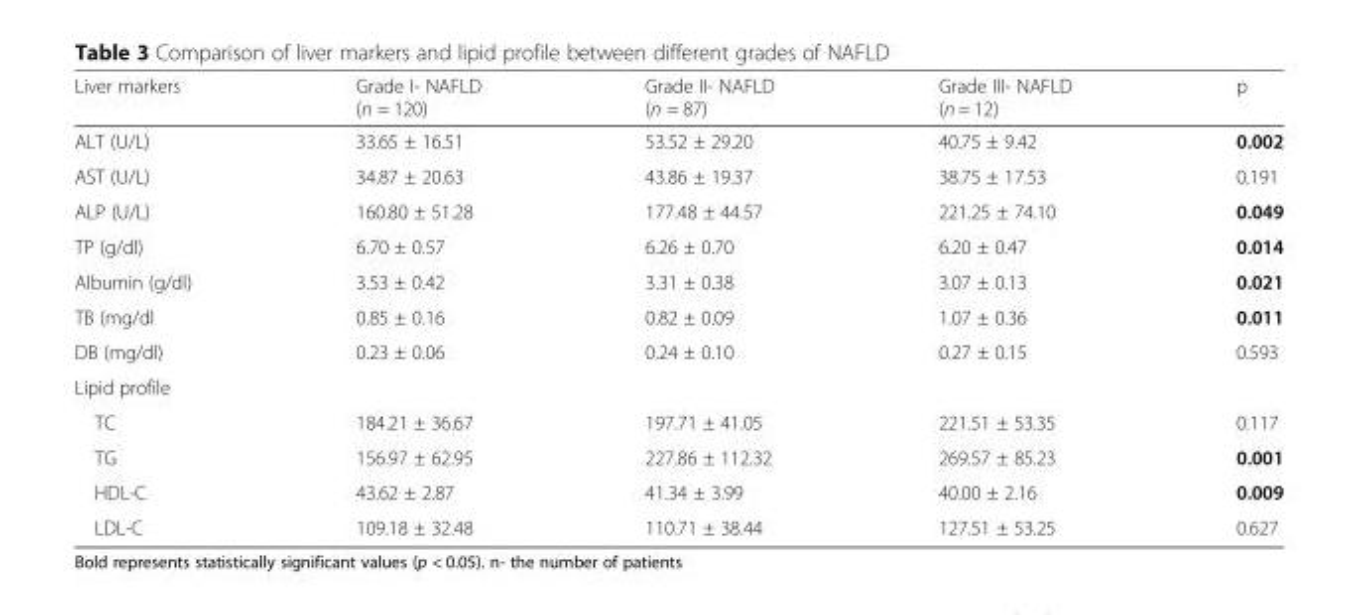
<table><thead><tr><td>Liver markers</td><td>Grade I- NAFLD (n = 120)</td><td>Grade II- NAFLD (n = 87)</td><td>Grade III- NAFLD (n = 12)</td><td>p</td></tr></thead><tbody><tr><td>ALT (U/L)</td><td>33.65 ± 16.51</td><td>53.52 ± 29.20</td><td>40.75 ± 9.42</td><td>0.002</td></tr><tr><td>AST (U/L)</td><td>34.87 ± 20.63</td><td>43.86 ± 19.37</td><td>38.75 ± 17.53</td><td>0.191</td></tr><tr><td>ALP (U/L)</td><td>160.80 ± 51.28</td><td>177.48 ± 44.57</td><td>221.25 ± 74.10</td><td>0.049</td></tr><tr><td>TP (g/dl)</td><td>6.70 ± 0.57</td><td>6.26 ± 0.70</td><td>6.20 ± 0.47</td><td>0.014</td></tr><tr><td>Albumin (g/dl)</td><td>3.53 ± 0.42</td><td>3.31 ± 0.38</td><td>3.07 ± 0.13</td><td>0.021</td></tr><tr><td>TB (mg/dl</td><td>0.85 ± 0.16</td><td>0.82 ± 0.09</td><td>1.07 ± 0.36</td><td>0.011</td></tr><tr><td>DB (mg/dl)</td><td>0.23 ± 0.06</td><td>0.24 ± 0.10</td><td>0.27 ± 0.15</td><td>0.593</td></tr><tr><td colspan="5">Lipid profile</td></tr><tr><td>TC</td><td>184.21 ± 36.67</td><td>197.71 ± 41.05</td><td>221.51 ± 53.35</td><td>0.117</td></tr><tr><td>TG</td><td>156.97 ± 62.95</td><td>227.86 ± 112.32</td><td>269.57 ± 85.23</td><td>0.001</td></tr><tr><td>HDL-C</td><td>43.62 ± 2.87</td><td>41.34 ± 3.99</td><td>40.00 ± 2.16</td><td>0.009</td></tr><tr><td>LDL-C</td><td>109.18 ± 32.48</td><td>110.71 ± 38.44</td><td>127.51 ± 53.25</td><td>0.627</td></tr></tbody></table>